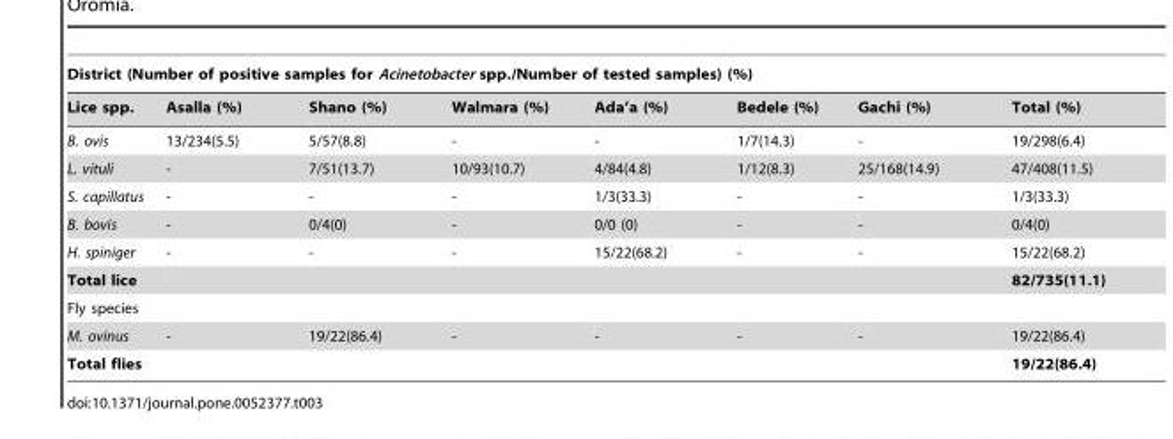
<table><thead><tr><td colspan="8">District (Number of positive samples for Acinetobacter spp./Number of tested samples) (%)</td></tr><tr><td>Lice spp.</td><td>Asalla (%)</td><td>Shano (%)</td><td>Walmara (%)</td><td>Ada’a (%)</td><td>Bedele (%)</td><td>Gachi (%)</td><td>Total (%)</td></tr></thead><tbody><tr><td>B. ovis</td><td>13/234(5.5)</td><td>5/57(8.8)</td><td>-</td><td>-</td><td>1/7(14.3)</td><td>-</td><td>19/298(6.4)</td></tr><tr><td>L. vituli</td><td>-</td><td>7/51(13.7)</td><td>10/93(10.7)</td><td>4/84(4.8)</td><td>1/12(8.3)</td><td>25/168(14.9)</td><td>47/408(11.5)</td></tr><tr><td>S. capillatus</td><td>-</td><td>-</td><td>-</td><td>1/3(33.3)</td><td>-</td><td>-</td><td>1/3(33.3)</td></tr><tr><td>B. bovis</td><td>-</td><td>0/4(0)</td><td>-</td><td>0/0 (0)</td><td>-</td><td>-</td><td>0/4(0)</td></tr><tr><td>H. spiniger</td><td>-</td><td>-</td><td>-</td><td>15/22(68.2)</td><td>-</td><td>-</td><td>15/22(68.2)</td></tr><tr><td>Total lice</td><td colspan="6"></td><td>82/735(11.1)</td></tr><tr><td colspan="8">Fly species</td></tr><tr><td>M. ovinus</td><td>-</td><td>19/22(86.4)</td><td>-</td><td>-</td><td>-</td><td>-</td><td>19/22(86.4)</td></tr><tr><td colspan="7">Total flies</td><td>19/22(86.4)</td></tr></tbody></table>